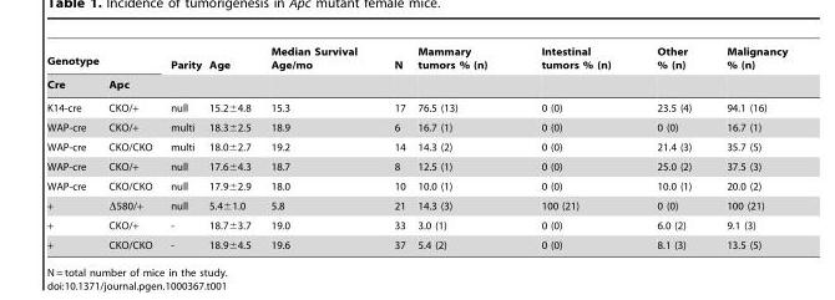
<table><thead><tr><td colspan="2">Genotype</td><td rowspan="2">Parity</td><td rowspan="2">Age</td><td rowspan="2">Median Survival Age/mo</td><td rowspan="2">N</td><td rowspan="2">Mammary tumors % (n)</td><td rowspan="2">Intestinal tumors % (n)</td><td rowspan="2">Other % (n)</td><td rowspan="2">Malignancy % (n)</td></tr><tr><td>Cre</td><td>Apc</td></tr></thead><tbody><tr><td>K14-cre</td><td>CKO/+</td><td>null</td><td>15.2±4.8</td><td>15.3</td><td>17</td><td>76.5 (13)</td><td>0 (0)</td><td>23.5 (4)</td><td>94.1 (16)</td></tr><tr><td>WAP-cre</td><td>CKO/+</td><td>multi</td><td>18.3±2.5</td><td>18.9</td><td>6</td><td>16.7 (1)</td><td>0 (0)</td><td>0 (0)</td><td>16.7 (1)</td></tr><tr><td>WAP-cre</td><td>CKO/CKO</td><td>multi</td><td>18.0±2.7</td><td>19.2</td><td>14</td><td>14.3 (2)</td><td>0 (0)</td><td>21.4 (3)</td><td>35.7 (5)</td></tr><tr><td>WAP-cre</td><td>CKO/+</td><td>null</td><td>17.6±4.3</td><td>18.7</td><td>8</td><td>12.5 (1)</td><td>0 (0)</td><td>25.0 (2)</td><td>37.5 (3)</td></tr><tr><td>WAP-cre</td><td>CKO/CKO</td><td>null</td><td>17.9±2.9</td><td>18.0</td><td>10</td><td>10.0 (1)</td><td>0 (0)</td><td>10.0 (1)</td><td>20.0 (2)</td></tr><tr><td>+</td><td>Δ580/+</td><td>null</td><td>5.4±1.0</td><td>5.8</td><td>21</td><td>14.3 (3)</td><td>100 (21)</td><td>0 (0)</td><td>100 (21)</td></tr><tr><td>+</td><td>CKO/+</td><td>-</td><td>18.7±3.7</td><td>19.0</td><td>33</td><td>3.0 (1)</td><td>0 (0)</td><td>6.0 (2)</td><td>9.1 (3)</td></tr><tr><td>+</td><td>CKO/CKO</td><td>-</td><td>18.9±4.5</td><td>19.6</td><td>37</td><td>5.4 (2)</td><td>0 (0)</td><td>8.1 (3)</td><td>13.5 (5)</td></tr></tbody></table>